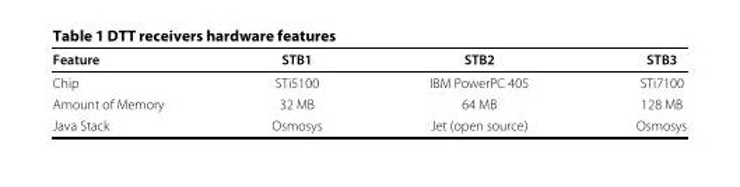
<table><thead><tr><td>Feature</td><td>STB1</td><td>STB2</td><td>STB3</td></tr></thead><tbody><tr><td>Chip</td><td>STi5100</td><td>IBM PowerPC 405</td><td>STi7100</td></tr><tr><td>Amount of Memory</td><td>32 MB</td><td>64 MB</td><td>128 MB</td></tr><tr><td>Java Stack</td><td>Osmosys</td><td>Jet (open source)</td><td>Osmosys</td></tr></tbody></table>